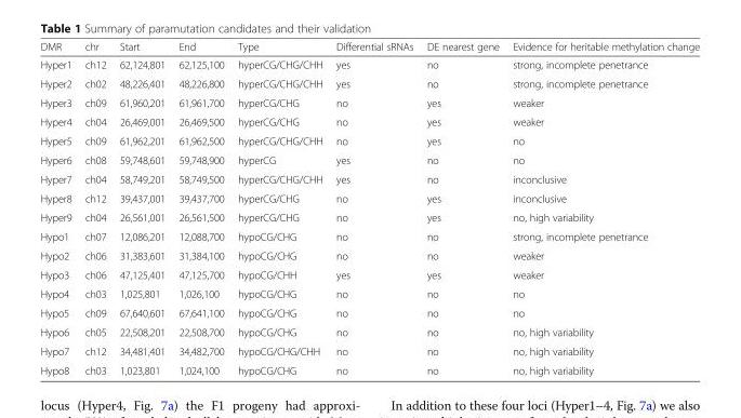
<table><thead><tr><td>DMR</td><td>chr</td><td>Start</td><td>End</td><td>Type</td><td>Differential sRNAs</td><td>DE nearest gene</td><td>Evidence for heritable methylation change</td></tr></thead><tbody><tr><td>Hyper1</td><td>ch12</td><td>62,124,801</td><td>62,125,100</td><td>hyperCG/CHG/CHH</td><td>yes</td><td>no</td><td>strong, incomplete penetrance</td></tr><tr><td>Hyper2</td><td>ch02</td><td>48,226,401</td><td>48,226,800</td><td>hyperCG/CHG/CHH</td><td>yes</td><td>no</td><td>strong, incomplete penetrance</td></tr><tr><td>Hyper3</td><td>ch09</td><td>61,960,201</td><td>61,961,700</td><td>hyperCG/CHG</td><td>no</td><td>yes</td><td>weaker</td></tr><tr><td>Hyper4</td><td>ch04</td><td>26,469,001</td><td>26,469,500</td><td>hyperCG/CHG</td><td>no</td><td>yes</td><td>weaker</td></tr><tr><td>Hyper5</td><td>ch09</td><td>61,962,201</td><td>61,962,500</td><td>hyperCG/CHG/CHH</td><td>no</td><td>yes</td><td>no</td></tr><tr><td>Hyper6</td><td>ch08</td><td>59,748,601</td><td>59,748,900</td><td>hyperCG</td><td>yes</td><td>no</td><td>no</td></tr><tr><td>Hyper7</td><td>ch04</td><td>58,749,201</td><td>58,749,500</td><td>hyperCG/CHG/CHH</td><td>yes</td><td>no</td><td>inconclusive</td></tr><tr><td>Hyper8</td><td>ch12</td><td>39,437,001</td><td>39,437,700</td><td>hyperCG/CHG</td><td>no</td><td>yes</td><td>inconclusive</td></tr><tr><td>Hyper9</td><td>ch04</td><td>26,561,001</td><td>26,561,500</td><td>hyperCG/CHG</td><td>no</td><td>yes</td><td>no, high variability</td></tr><tr><td>Hypo1</td><td>ch07</td><td>12,086,201</td><td>12,088,700</td><td>hypoCG/CHG</td><td>no</td><td>no</td><td>strong, incomplete penetrance</td></tr><tr><td>Hypo2</td><td>ch06</td><td>31,383,601</td><td>31,384,100</td><td>hypoCG/CHG</td><td>no</td><td>no</td><td>weaker</td></tr><tr><td>Hypo3</td><td>ch06</td><td>47,125,401</td><td>47,125,700</td><td>hypoCG/CHH</td><td>yes</td><td>yes</td><td>weaker</td></tr><tr><td>Hypo4</td><td>ch03</td><td>1,025,801</td><td>1,026,100</td><td>hypoCG/CHG</td><td>no</td><td>no</td><td>no</td></tr><tr><td>Hypo5</td><td>ch09</td><td>67,640,601</td><td>67,641,100</td><td>hypoCG/CHG</td><td>no</td><td>no</td><td>no</td></tr><tr><td>Hypo6</td><td>ch05</td><td>22,508,201</td><td>22,508,700</td><td>hypoCG/CHG</td><td>no</td><td>no</td><td>no, high variability</td></tr><tr><td>Hypo7</td><td>ch12</td><td>34,481,401</td><td>34,482,700</td><td>hypoCG/CHG/CHH</td><td>no</td><td>no</td><td>no, high variability</td></tr><tr><td>Hypo8</td><td>ch03</td><td>1,023,801</td><td>1,024,100</td><td>hypoCG/CHG</td><td>no</td><td>no</td><td>no, high variability</td></tr></tbody></table>